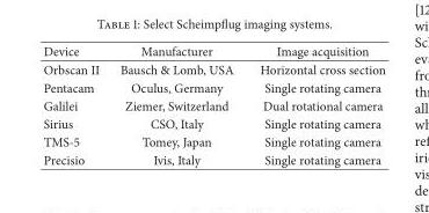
<table><thead><tr><td>Device</td><td>Manufacturer</td><td>Image acquisition</td></tr></thead><tbody><tr><td>Orbscan II</td><td>Bausch &amp; Lomb, USA</td><td>Horizontal cross section</td></tr><tr><td>Pentacam</td><td>Oculus, Germany</td><td>Single rotating camera</td></tr><tr><td>Galilei</td><td>Ziemer, Switzerland</td><td>Dual rotational camera</td></tr><tr><td>Sirius</td><td>CSO, Italy</td><td>Single rotating camera</td></tr><tr><td>TMS-5</td><td>Tomey, Japan</td><td>Single rotating camera</td></tr><tr><td>Precisio</td><td>Ivis, Italy</td><td>Single rotating camera</td></tr></tbody></table>